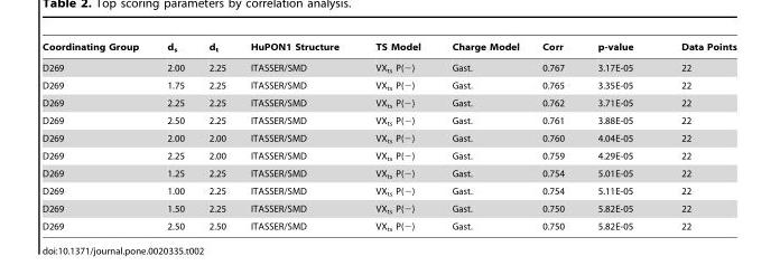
<table><thead><tr><td>Coordinating Group</td><td>d<sub>s</sub></td><td>d<sub>t</sub></td><td>HuPON1 Structure</td><td>TS Model</td><td>Charge Model</td><td>Corr</td><td>p-value</td><td>Data Points</td></tr></thead><tbody><tr><td>D269</td><td>2.00</td><td>2.25</td><td>ITASSER/SMD</td><td>VX<sub>ts</sub> P(−)</td><td>Gast.</td><td>0.767</td><td>3.17E-05</td><td>22</td></tr><tr><td>D269</td><td>1.75</td><td>2.25</td><td>ITASSER/SMD</td><td>VX<sub>ts</sub> P(−)</td><td>Gast.</td><td>0.765</td><td>3.35E-05</td><td>22</td></tr><tr><td>D269</td><td>2.25</td><td>2.25</td><td>ITASSER/SMD</td><td>VX<sub>ts</sub> P(−)</td><td>Gast.</td><td>0.762</td><td>3.71E-05</td><td>22</td></tr><tr><td>D269</td><td>2.50</td><td>2.25</td><td>ITASSER/SMD</td><td>VX<sub>ts</sub> P(−)</td><td>Gast.</td><td>0.761</td><td>3.88E-05</td><td>22</td></tr><tr><td>D269</td><td>2.00</td><td>2.00</td><td>ITASSER/SMD</td><td>VX<sub>ts</sub> P(−)</td><td>Gast.</td><td>0.760</td><td>4.04E-05</td><td>22</td></tr><tr><td>D269</td><td>2.25</td><td>2.00</td><td>ITASSER/SMD</td><td>VX<sub>ts</sub> P(−)</td><td>Gast.</td><td>0.759</td><td>4.29E-05</td><td>22</td></tr><tr><td>D269</td><td>1.25</td><td>2.25</td><td>ITASSER/SMD</td><td>VX<sub>ts</sub> P(−)</td><td>Gast.</td><td>0.754</td><td>5.01E-05</td><td>22</td></tr><tr><td>D269</td><td>1.00</td><td>2.25</td><td>ITASSER/SMD</td><td>VX<sub>ts</sub> P(−)</td><td>Gast.</td><td>0.754</td><td>5.11E-05</td><td>22</td></tr><tr><td>D269</td><td>1.50</td><td>2.25</td><td>ITASSER/SMD</td><td>VX<sub>ts</sub> P(−)</td><td>Gast.</td><td>0.750</td><td>5.82E-05</td><td>22</td></tr><tr><td>D269</td><td>2.50</td><td>2.50</td><td>ITASSER/SMD</td><td>VX<sub>ts</sub> P(−)</td><td>Gast.</td><td>0.750</td><td>5.82E-05</td><td>22</td></tr></tbody></table>